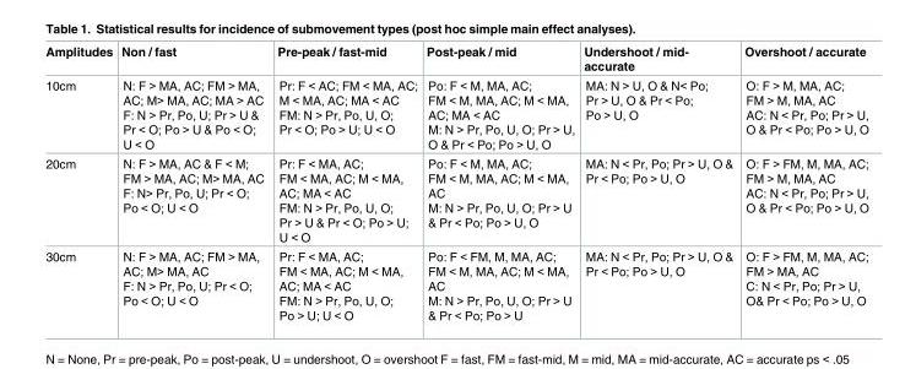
<table><thead><tr><td>Amplitudes</td><td>Non / fast</td><td>Pre-peak / fast-mid</td><td>Post-peak / mid</td><td>Undershoot / mid- accurate</td><td>Overshoot / accurate</td></tr></thead><tbody><tr><td>10cm</td><td>N: F &gt; MA, AC; FM &gt; MA, AC; M&gt; MA, AC; MA &gt; AC F: N &gt; Pr, Po, U; Pr &gt; U &amp; Pr &lt; O; Po &gt; U &amp; Po &lt; O; U &lt; O</td><td>Pr: F &lt; AC; FM &lt; MA, AC; M &lt; MA, AC; MA &lt; AC FM: N &gt; Pr, Po, U, O; Pr &lt; O; Po &gt; U; U &lt; O</td><td>Po: F &lt; M, MA, AC; FM &lt; M, MA, AC; M &lt; MA, AC; MA &lt; AC M: N &gt; Pr, Po, U, O; Pr &gt; U, O &amp; Pr &lt; Po; Po &gt; U, O</td><td>MA: N &gt; U, O &amp; N&lt; Po; Pr &gt; U, O &amp; Pr &lt; Po; Po &gt; U, O</td><td>O: F &gt; M, MA, AC; FM &gt; M, MA, AC AC: N &lt; Pr, Po; Pr &gt; U, O &amp; Pr &lt; Po; Po &gt; U, O</td></tr><tr><td>20cm</td><td>N: F &gt; MA, AC &amp; F &lt; M; FM &gt; MA, AC; M&gt; MA, AC F: N&gt; Pr, Po, U; Pr &lt; O; Po &lt; O; U &lt; O</td><td>Pr: F &lt; MA, AC; FM &lt; MA, AC; M &lt; MA, AC; MA &lt; AC FM: N &gt; Pr, Po, U, O; Pr &gt; U &amp; Pr &lt; O; Po &gt; U; U &lt; O</td><td>Po: F &lt; M, MA, AC; FM &lt; M, MA, AC; M &lt; MA, AC M: N &gt; Pr, Po, U, O; Pr &gt; U &amp; Pr &lt; Po; Po &gt; U, O</td><td>MA: N &lt; Pr, Po; Pr &gt; U, O &amp; Pr &lt; Po; Po &gt; U, O</td><td>O: F &gt; FM, M, MA, AC; FM &gt; M, MA, AC AC: N &lt; Pr, Po; Pr &gt; U, O &amp; Pr &lt; Po; Po &gt; U, O</td></tr><tr><td>30cm</td><td>N: F &gt; MA, AC; FM &gt; MA, AC; M&gt; MA, AC F: N &gt; Pr, Po, U; Pr &lt; O; Po &lt; O; U &lt; O</td><td>Pr: F &lt; MA, AC; FM &lt; MA, AC; M &lt; MA, AC; MA &lt; AC FM: N &gt; Pr, Po, U, O; Po &gt; U; U &lt; O</td><td>Po: F &lt; FM, M, MA, AC; FM &lt; M, MA, AC; M &lt; MA, AC M: N &gt; Pr, Po, U, O; Pr &gt; U &amp; Pr &lt; Po; Po &gt; U</td><td>MA: N &lt; Pr, Po; Pr &gt; U, O &amp; Pr &lt; Po; Po &gt; U, O</td><td>O: F &gt; FM, M, MA, AC; FM &gt; MA, AC C: N &lt; Pr, Po; Pr &gt; U, O&amp; Pr &lt; Po; Po &gt; U, O</td></tr></tbody></table>